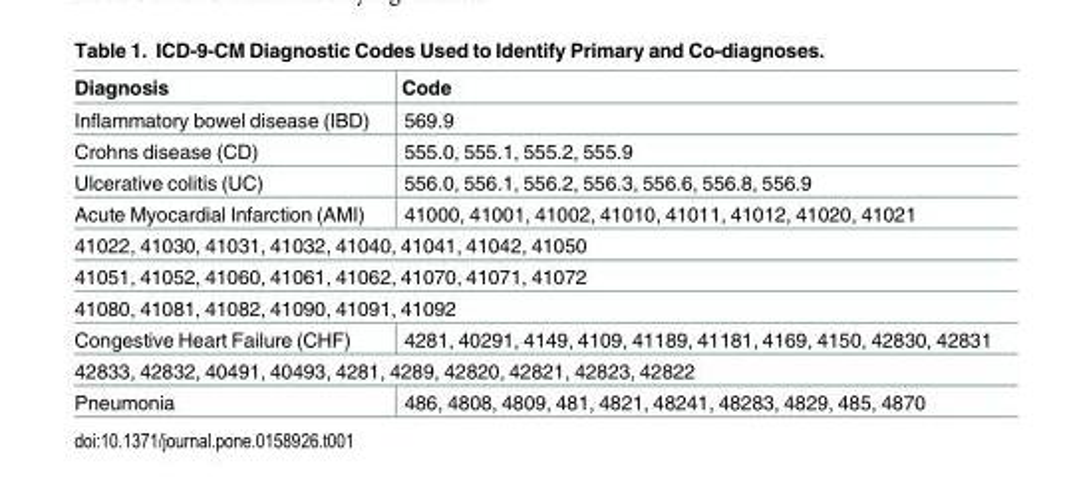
<table><thead><tr><td>Diagnosis</td><td>Code</td></tr></thead><tbody><tr><td>Inflammatory bowel disease (IBD)</td><td>569.9</td></tr><tr><td>Crohns disease (CD)</td><td>555.0, 555.1, 555.2, 555.9</td></tr><tr><td>Ulcerative colitis (UC)</td><td>556.0, 556.1, 556.2, 556.3, 556.6, 556.8, 556.9</td></tr><tr><td>Acute Myocardial Infarction (AMI)</td><td>41000, 41001, 41002, 41010, 41011, 41012, 41020, 41021</td></tr><tr><td colspan="2">41022, 41030, 41031, 41032, 41040, 41041, 41042, 41050</td></tr><tr><td colspan="2">41051, 41052, 41060, 41061, 41062, 41070, 41071, 41072</td></tr><tr><td colspan="2">41080, 41081, 41082, 41090, 41091, 41092</td></tr><tr><td>Congestive Heart Failure (CHF)</td><td>4281, 40291, 4149, 4109, 41189, 41181, 4169, 4150, 42830, 42831</td></tr><tr><td colspan="2">42833, 42832, 40491, 40493, 4281, 4289, 42820, 42821, 42823, 42822</td></tr><tr><td>Pneumonia</td><td>486, 4808, 4809, 481, 4821, 48241, 48283, 4829, 485, 4870</td></tr></tbody></table>